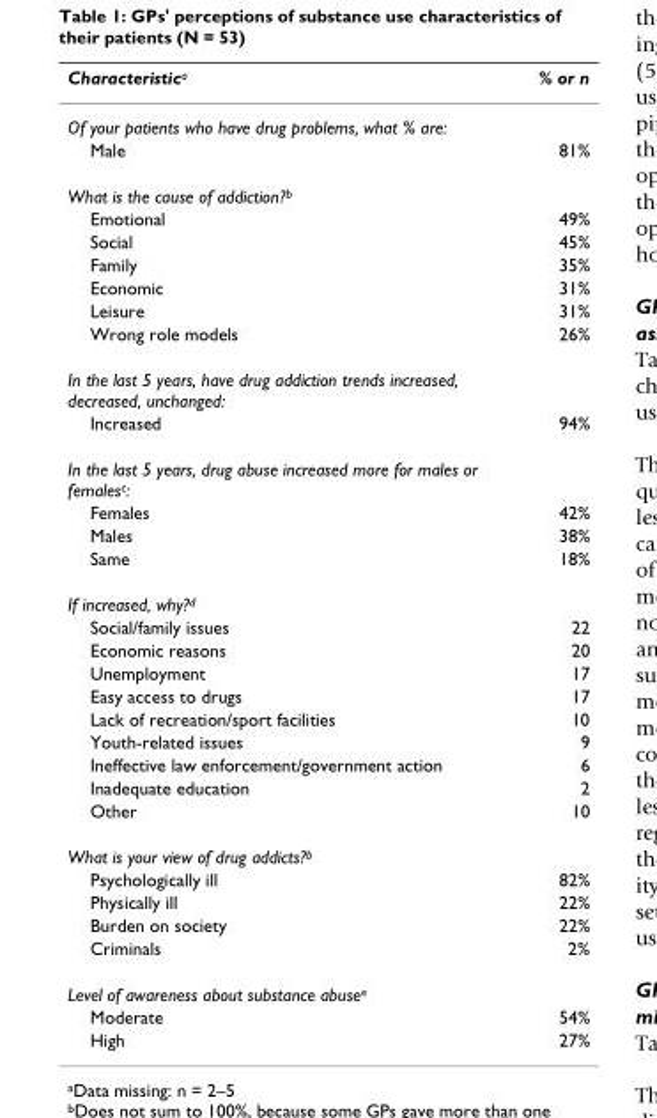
<table><thead><tr><td>Characteristic<sup>a</sup></td><td>% or n</td></tr></thead><tbody><tr><td colspan="2">Of your patients who have drug problems, what % are:</td></tr><tr><td>Male</td><td>81%</td></tr><tr><td colspan="2">What is the cause of addiction?<sup>b</sup></td></tr><tr><td>Emotional</td><td>49%</td></tr><tr><td>Social</td><td>45%</td></tr><tr><td>Family</td><td>35%</td></tr><tr><td>Economic</td><td>31%</td></tr><tr><td>Leisure</td><td>31%</td></tr><tr><td>Wrong role models</td><td>26%</td></tr><tr><td colspan="2">In the last 5 years, have drug addiction trends increased, decreased, unchanged:</td></tr><tr><td>Increased</td><td>94%</td></tr><tr><td colspan="2">In the last 5 years, drug abuse increased more for males or females<sup>c</sup>:</td></tr><tr><td>Females</td><td>42%</td></tr><tr><td>Males</td><td>38%</td></tr><tr><td>Same</td><td>18%</td></tr><tr><td colspan="2">If increased, why?<sup>d</sup></td></tr><tr><td>Social/family issues</td><td>22</td></tr><tr><td>Economic reasons</td><td>20</td></tr><tr><td>Unemployment</td><td>17</td></tr><tr><td>Easy access to drugs</td><td>17</td></tr><tr><td>Lack of recreation/sport facilities</td><td>10</td></tr><tr><td>Youth-related issues</td><td>9</td></tr><tr><td>Ineffective law enforcement/government action</td><td>6</td></tr><tr><td>Inadequate education</td><td>2</td></tr><tr><td>Other</td><td>10</td></tr><tr><td colspan="2">What is your view of drug addicts?<sup>b</sup></td></tr><tr><td>Psychologically ill</td><td>82%</td></tr><tr><td>Physically ill</td><td>22%</td></tr><tr><td>Burden on society</td><td>22%</td></tr><tr><td>Criminals</td><td>2%</td></tr><tr><td colspan="2">Level of awareness about substance abuse<sup>e</sup></td></tr><tr><td>Moderate</td><td>54%</td></tr><tr><td>High</td><td>27%</td></tr></tbody></table>